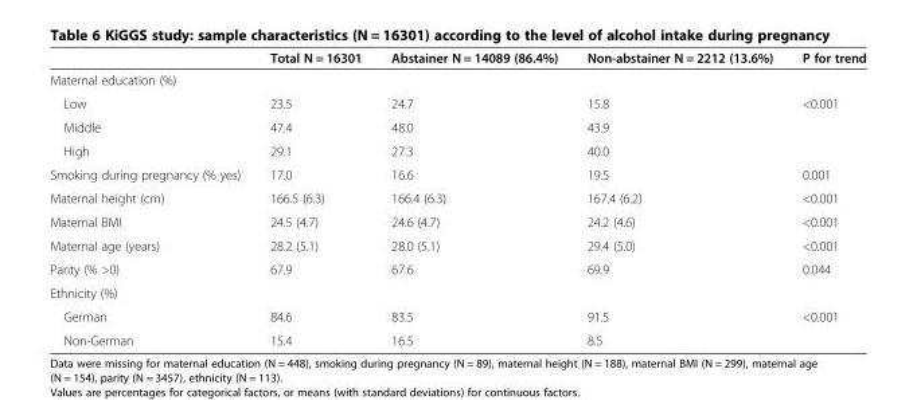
<table><thead><tr><td></td><td>Total N = 16301</td><td>Abstainer N = 14089 (86.4%)</td><td>Non-abstainer N = 2212 (13.6%)</td><td>P for trend</td></tr></thead><tbody><tr><td colspan="5">Maternal education (%)</td></tr><tr><td>Low</td><td>23.5</td><td>24.7</td><td>15.8</td><td rowspan="3">&lt;0.001</td></tr><tr><td>Middle</td><td>47.4</td><td>48.0</td><td>43.9</td></tr><tr><td>High</td><td>29.1</td><td>27.3</td><td>40.0</td></tr><tr><td>Smoking during pregnancy (% yes)</td><td>17.0</td><td>16.6</td><td>19.5</td><td>0.001</td></tr><tr><td>Maternal height (cm)</td><td>166.5 (6.3)</td><td>166.4 (6.3)</td><td>167.4 (6.2)</td><td>&lt;0.001</td></tr><tr><td>Maternal BMI</td><td>24.5 (4.7)</td><td>24.6 (4.7)</td><td>24.2 (4.6)</td><td>&lt;0.001</td></tr><tr><td>Maternal age (years)</td><td>28.2 (5.1)</td><td>28.0 (5.1)</td><td>29.4 (5.0)</td><td>&lt;0.001</td></tr><tr><td>Parity (% &gt;0)</td><td>67.9</td><td>67.6</td><td>69.9</td><td>0.044</td></tr><tr><td colspan="5">Ethnicity (%)</td></tr><tr><td>German</td><td>84.6</td><td>83.5</td><td>91.5</td><td rowspan="2">&lt;0.001</td></tr><tr><td>Non-German</td><td>15.4</td><td>16.5</td><td>8.5</td></tr></tbody></table>